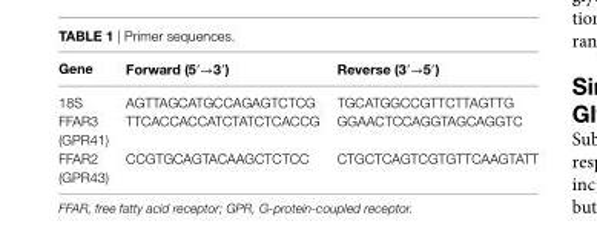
<table><thead><tr><td>gene</td><td>Forward (5′→3′)</td><td>reverse (3′→5′)</td></tr></thead><tbody><tr><td>18S</td><td>AGTTAGCATGCCAGAGTCTCG</td><td>TGCATGGCCGTTCTTAGTTG</td></tr><tr><td>FFAR3 (GPR41)</td><td>TTCACCACCATCTATCTCACCG</td><td>GGAACTCCAGGTAGCAGGTC</td></tr><tr><td>FFAR2 (GPR43)</td><td>CCGTGCAGTACAAGCTCTCC</td><td>CTGCTCAGTCGTGTTCAAGTATT</td></tr></tbody></table>